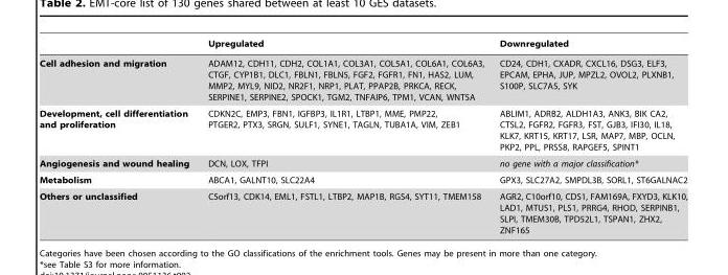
<table><thead><tr><td></td><td>Upregulated</td><td>Downregulated</td></tr></thead><tbody><tr><td>Cell adhesion and migration</td><td>ADAM12, CDH11, CDH2, COL1A1, COL3A1, COL5A1, COL6A1, COL6A3, CTGF, CYP1B1, DLC1, FBLN1, FBLN5, FGF2, FGFR1, FN1, HAS2, LUM, MMP2, MYL9, NID2, NR2F1, NRP1, PLAT, PPAP2B, PRKCA, RECK, SERPINE1, SERPINE2, SPOCK1, TGM2, TNFAIP6, TPM1, VCAN, WNT5A</td><td>CD24, CDH1, CXADR, CXCL16, DSG3, ELF3, EPCAM, EPHA, JUP, MPZL2, OVOL2, PLXNB1, S100P, SLC7A5, SYK</td></tr><tr><td>Development, cell differentiation and proliferation</td><td>CDKN2C, EMP3, FBN1, IGFBP3, IL1R1, LTBP1, MME, PMP22, PTGER2, PTX3, SRGN, SULF1, SYNE1, TAGLN, TUBA1A, VIM, ZEB1</td><td>ABLIM1, ADRB2, ALDH1A3, ANK3, BIK CA2, CTSL2, FGFR2, FGFR3, FST, GJB3, IFI30, IL18, KLK7, KRT15, KRT17, LSR, MAP7, MBP, OCLN, PKP2, PPL, PRSS8, RAPGEF5, SPINT1</td></tr><tr><td>Angiogenesis and wound healing</td><td>DCN, LOX, TFPI</td><td>no gene with a major classification*</td></tr><tr><td>Metabolism</td><td>ABCA1, GALNT10, SLC22A4</td><td>GPX3, SLC27A2, SMPDL3B, SORL1, ST6GALNAC2</td></tr><tr><td>Others or unclassified</td><td>C5orf13, CDK14, EML1, FSTL1, LTBP2, MAP1B, RGS4, SYT11, TMEM158</td><td>AGR2, C10orf10, CDS1, FAM169A, FXYD3, KLK10, LAD1, MTUS1, PLS1, PRRG4, RHOD, SERPINB1, SLPI, TMEM30B, TPD52L1, TSPAN1, ZHX2, ZNF165</td></tr></tbody></table>